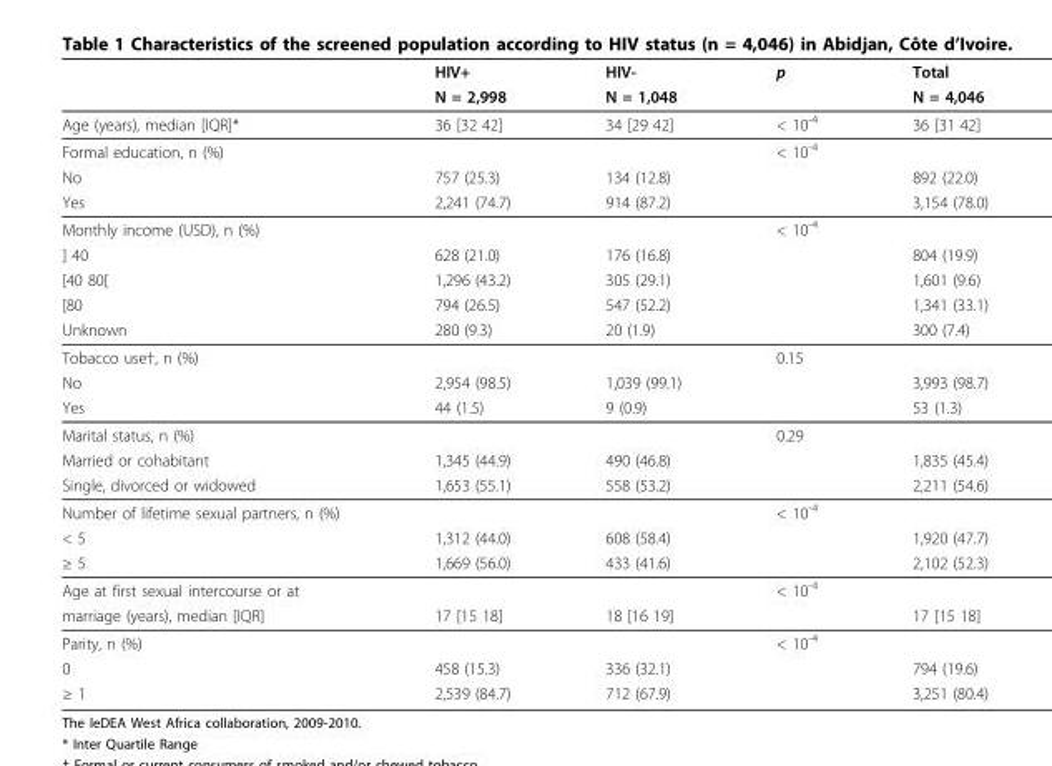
<table><thead><tr><td rowspan="2"></td><td rowspan="2">HIV+ N = 2,998</td><td rowspan="2">HIV- N = 1,048</td><td rowspan="2">p</td><td rowspan="2">Total N = 4,046</td></tr><tr></tr></thead><tbody><tr><td>Age (years), median [IQR]*</td><td>36 [32 42]</td><td>34 [29 42]</td><td>&lt; 10-4</td><td>36 [31 42]</td></tr><tr><td>Formal education, n (%)</td><td></td><td></td><td>&lt; 10-4</td><td></td></tr><tr><td>No</td><td>757 (25.3)</td><td>134 (12.8)</td><td></td><td>892 (22.0)</td></tr><tr><td>Yes</td><td>2,241 (74.7)</td><td>914 (87.2)</td><td></td><td>3,154 (78.0)</td></tr><tr><td>Monthly income (USD), n (%)</td><td></td><td></td><td>&lt; 10-4</td><td></td></tr><tr><td>] 40</td><td>628 (21.0)</td><td>176 (16.8)</td><td></td><td>804 (19.9)</td></tr><tr><td>[40 80[</td><td>1,296 (43.2)</td><td>305 (29.1)</td><td></td><td>1,601 (9.6)</td></tr><tr><td>[80</td><td>794 (26.5)</td><td>547 (52.2)</td><td></td><td>1,341 (33.1)</td></tr><tr><td>Unknown</td><td>280 (9.3)</td><td>20 (1.9)</td><td></td><td>300 (7.4)</td></tr><tr><td>Tobacco use†, n (%)</td><td></td><td></td><td>0.15</td><td></td></tr><tr><td>No</td><td>2,954 (98.5)</td><td>1,039 (99.1)</td><td></td><td>3,993 (98.7)</td></tr><tr><td>Yes</td><td>44 (1.5)</td><td>9 (0.9)</td><td></td><td>53 (1.3)</td></tr><tr><td>Marital status, n (%)</td><td></td><td></td><td>0.29</td><td></td></tr><tr><td>Married or cohabitant</td><td>1,345 (44.9)</td><td>490 (46.8)</td><td></td><td>1,835 (45.4)</td></tr><tr><td>Single, divorced or widowed</td><td>1,653 (55.1)</td><td>558 (53.2)</td><td></td><td>2,211 (54.6)</td></tr><tr><td>Number of lifetime sexual partners, n (%)</td><td></td><td></td><td>&lt; 10-4</td><td></td></tr><tr><td>&lt; 5</td><td>1,312 (44.0)</td><td>608 (58.4)</td><td></td><td>1,920 (47.7)</td></tr><tr><td>≥ 5</td><td>1,669 (56.0)</td><td>433 (41.6)</td><td></td><td>2,102 (52.3)</td></tr><tr><td>Age at first sexual intercourse or at</td><td></td><td></td><td>&lt; 10-4</td><td></td></tr><tr><td>marriage (years), median [IQR]</td><td>17 [15 18]</td><td>18 [16 19]</td><td></td><td>17 [15 18]</td></tr><tr><td>Parity, n (%)</td><td></td><td></td><td>&lt; 10-4</td><td></td></tr><tr><td>0</td><td>458 (15.3)</td><td>336 (32.1)</td><td></td><td>794 (19.6)</td></tr><tr><td>≥ 1</td><td>2,539 (84.7)</td><td>712 (67.9)</td><td></td><td>3,251 (80.4)</td></tr></tbody></table>